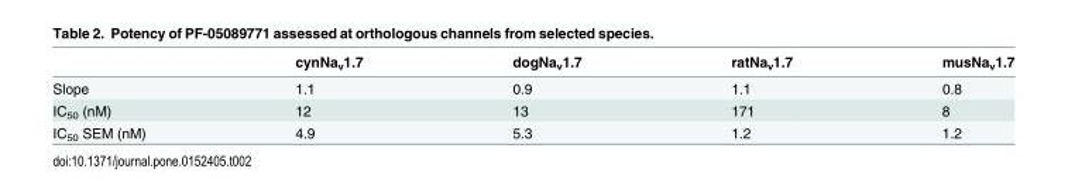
<table><thead><tr><td></td><td>cynNa<sub>v</sub>1.7</td><td>dogNa<sub>v</sub>1.7</td><td>ratNa<sub>v</sub>1.7</td><td>musNa<sub>v</sub>1.7</td></tr></thead><tbody><tr><td>Slope</td><td>1.1</td><td>0.9</td><td>1.1</td><td>0.8</td></tr><tr><td>IC<sub>50</sub> (nM)</td><td>12</td><td>13</td><td>171</td><td>8</td></tr><tr><td>IC<sub>50</sub> SEM (nM)</td><td>4.9</td><td>5.3</td><td>1.2</td><td>1.2</td></tr></tbody></table>